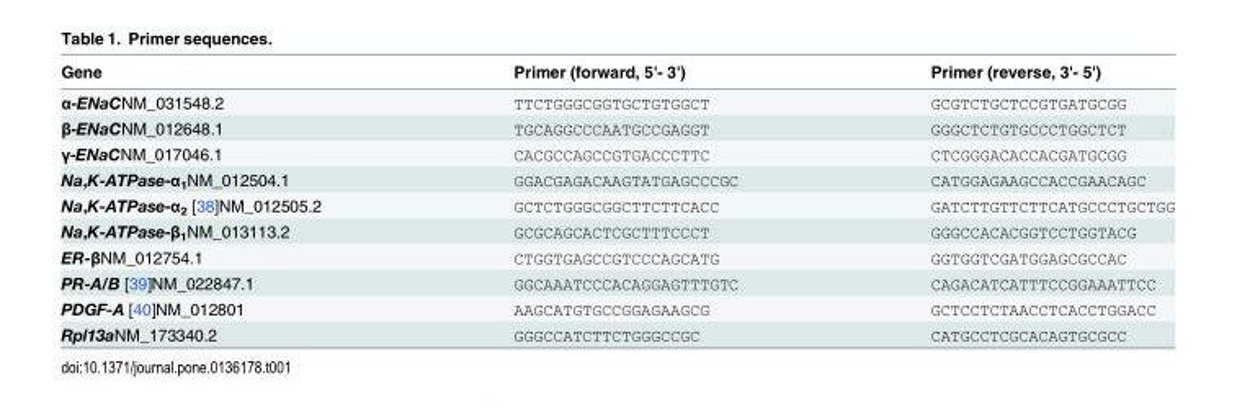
<table><thead><tr><td>Gene</td><td>Primer (forward, 5&#x27;- 3&#x27;)</td><td>Primer (reverse, 3&#x27;- 5&#x27;)</td></tr></thead><tbody><tr><td>α-ENaCNM_031548.2</td><td>TTCTGGGCGGTGCTGTGGCT</td><td>GCGTCTGCTCCGTGATGCGG</td></tr><tr><td>β-ENaCNM_012648.1</td><td>TGCAGGCCCAATGCCGAGGT</td><td>GGGCTCTGTGCCCTGGCTCT</td></tr><tr><td>γ-ENaCNM_017046.1</td><td>CACGCCAGCCGTGACCCTTC</td><td>CTCGGGACACCACGATGCGG</td></tr><tr><td>Na,K-ATPase-α<sub>1</sub>NM_012504.1</td><td>GGACGAGACAAGTATGAGCCCGC</td><td>CATGGAGAAGCCACCGAACAGC</td></tr><tr><td>Na,K-ATPase-α<sub>2</sub> [38]NM_012505.2</td><td>GCTCTGGGCGGCTTCTTCACC</td><td>GATCTTGTTCTTCATGCCCTGCTGG</td></tr><tr><td>Na,K-ATPase-β<sub>1</sub>NM_013113.2</td><td>GCGCAGCACTCGCTTTCCCT</td><td>GGGCCACACGGTCCTGGTACG</td></tr><tr><td>ER-βNM_012754.1</td><td>CTGGTGAGCCGTCCCAGCATG</td><td>GGTGGTCGATGGAGCGCCAC</td></tr><tr><td>PR-A/B [39]NM_022847.1</td><td>GGCAAATCCCACAGGAGTTTGTC</td><td>CAGACATCATTTCCGGAAATTCC</td></tr><tr><td>PDGF-A [40]NM_012801</td><td>AAGCATGTGCCGGAGAAGCG</td><td>GCTCCTCTAACCTCACCTGGACC</td></tr><tr><td>Rpl13aNM_173340.2</td><td>GGGCCATCTTCTGGGCCGC</td><td>CATGCCTCGCACAGTGCGCC</td></tr></tbody></table>